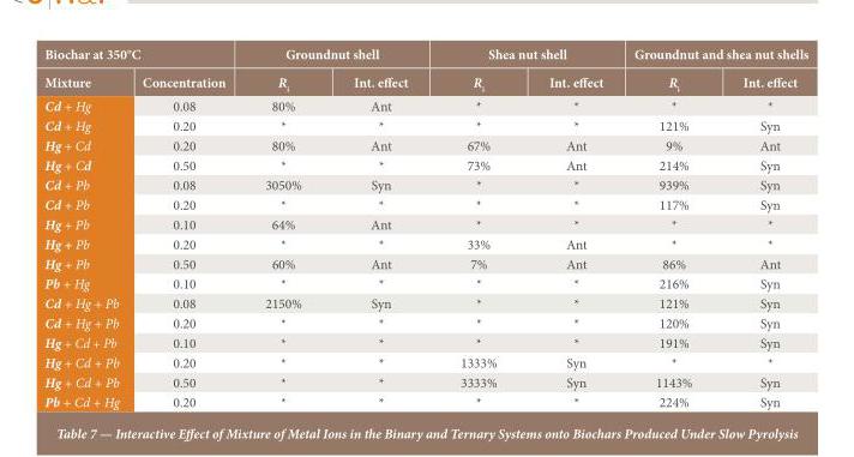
<table><thead><tr><td colspan="2">Biochar at 350°C</td><td colspan="2">Groundnut shell</td><td colspan="2">Shea nut shell</td><td colspan="2">Groundnut and shea nut shells</td></tr><tr><td>Mixture</td><td>Concentration</td><td>R<sub>i</sub></td><td>Int. effect</td><td>R<sub>i</sub></td><td>Int. effect</td><td>R<sub>i</sub></td><td>Int. effect</td></tr></thead><tbody><tr><td>Cd + Hg</td><td>0.08</td><td>80%</td><td>Ant</td><td>*</td><td>*</td><td>*</td><td>*</td></tr><tr><td>Cd + Hg</td><td>0.20</td><td>*</td><td>*</td><td>*</td><td>*</td><td>121%</td><td>Syn</td></tr><tr><td>Hg + Cd</td><td>0.20</td><td>80%</td><td>Ant</td><td>67%</td><td>Ant</td><td>9%</td><td>Ant</td></tr><tr><td>Hg + Cd</td><td>0.50</td><td>*</td><td>*</td><td>73%</td><td>Ant</td><td>214%</td><td>Syn</td></tr><tr><td>Cd + Pb</td><td>0.08</td><td>3050%</td><td>Syn</td><td>*</td><td>*</td><td>939%</td><td>Syn</td></tr><tr><td>Cd + Pb</td><td>0.20</td><td>*</td><td>*</td><td>*</td><td>*</td><td>117%</td><td>Syn</td></tr><tr><td>Hg + Pb</td><td>0.10</td><td>64%</td><td>Ant</td><td>*</td><td>*</td><td>*</td><td>*</td></tr><tr><td>Hg + Pb</td><td>0.20</td><td>*</td><td>*</td><td>33%</td><td>Ant</td><td>*</td><td>*</td></tr><tr><td>Hg + Pb</td><td>0.50</td><td>60%</td><td>Ant</td><td>7%</td><td>Ant</td><td>86%</td><td>Ant</td></tr><tr><td>Pb + Hg</td><td>0.10</td><td>*</td><td>*</td><td>*</td><td>*</td><td>216%</td><td>Syn</td></tr><tr><td>Cd + Hg + Pb</td><td>0.08</td><td>2150%</td><td>Syn</td><td>*</td><td>*</td><td>121%</td><td>Syn</td></tr><tr><td>Cd + Hg + Pb</td><td>0.20</td><td>*</td><td>*</td><td>*</td><td>*</td><td>120%</td><td>Syn</td></tr><tr><td>Hg + Cd + Pb</td><td>0.10</td><td>*</td><td>*</td><td>*</td><td>*</td><td>191%</td><td>Syn</td></tr><tr><td>Hg + Cd + Pb</td><td>0.20</td><td>*</td><td>*</td><td>1333%</td><td>Syn</td><td>*</td><td>*</td></tr><tr><td>Hg + Cd + Pb</td><td>0.50</td><td>*</td><td>*</td><td>3333%</td><td>Syn</td><td>1143%</td><td>Syn</td></tr><tr><td>Pb + Cd + Hg</td><td>0.20</td><td>*</td><td>*</td><td>*</td><td>*</td><td>224%</td><td>Syn</td></tr></tbody></table>